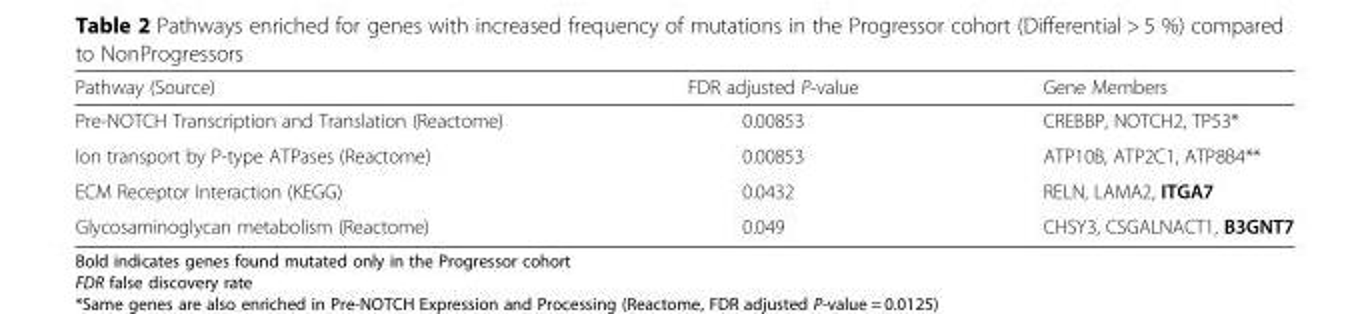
<table><thead><tr><td>Pathway (Source)</td><td>FDR adjusted P-value</td><td>Gene Members</td></tr></thead><tbody><tr><td>Pre-NOTCH Transcription and Translation (Reactome)</td><td>0.00853</td><td>CREBBP, NOTCH2, TP53*</td></tr><tr><td>Ion transport by P-type ATPases (Reactome)</td><td>0.00853</td><td>ATP10B, ATP2C1, ATP8B4**</td></tr><tr><td>ECM Receptor Interaction (KEGG)</td><td>0.0432</td><td>RELN, LAMA2, ITGA7</td></tr><tr><td>Glycosaminoglycan metabolism (Reactome)</td><td>0.049</td><td>CHSY3, CSGALNACT1, B3GNT7</td></tr></tbody></table>